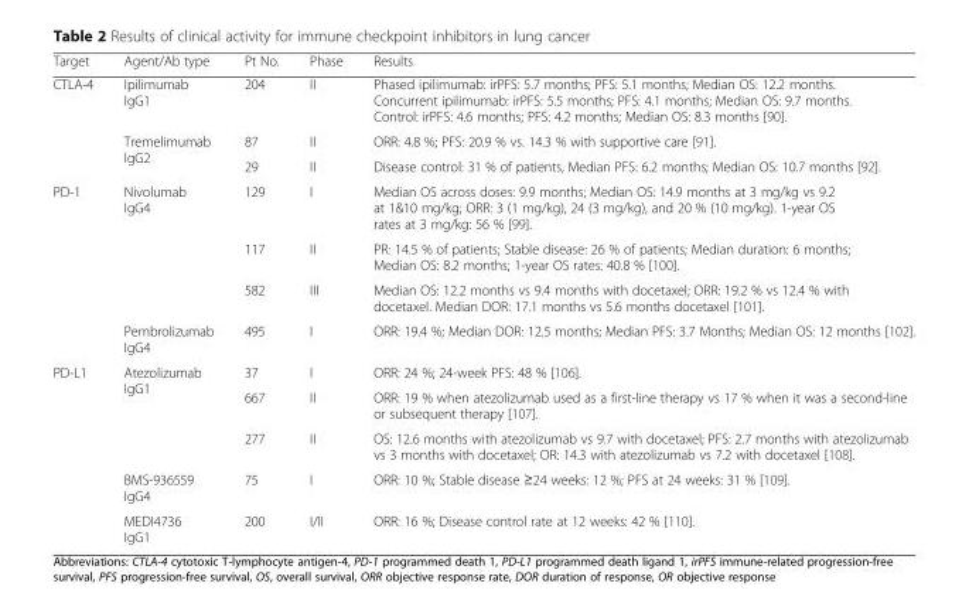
<table><thead><tr><td>Target</td><td>Agent/Ab type</td><td>Pt No.</td><td>Phase</td><td>Results</td></tr></thead><tbody><tr><td rowspan="3">CTLA-4</td><td>Ipilimumab IgG1</td><td>204</td><td>II</td><td>Phased ipilimumab: irPFS: 5.7 months; PFS: 5.1 months; Median OS: 12.2 months. Concurrent ipilimumab: irPFS: 5.5 months; PFS: 4.1 months; Median OS: 9.7 months. Control: irPFS: 4.6 months; PFS: 4.2 months; Median OS: 8.3 months [90].</td></tr><tr><td rowspan="2">Tremelimumab IgG2</td><td>87</td><td>II</td><td>ORR: 4.8 %; PFS: 20.9 % vs. 14.3 % with supportive care [91].</td></tr><tr><td>29</td><td>II</td><td>Disease control: 31 % of patients, Median PFS: 6.2 months; Median OS: 10.7 months [92].</td></tr><tr><td rowspan="4">PD-1</td><td rowspan="3">Nivolumab IgG4</td><td>129</td><td>I</td><td>Median OS across doses: 9.9 months; Median OS: 14.9 months at 3 mg/kg vs 9.2 at 1&amp;10 mg/kg; ORR: 3 (1 mg/kg), 24 (3 mg/kg), and 20 % (10 mg/kg). 1-year OS rates at 3 mg/kg: 56 % [99].</td></tr><tr><td>117</td><td>II</td><td>PR: 14.5 % of patients; Stable disease: 26 % of patients; Median duration: 6 months; Median OS: 8.2 months; 1-year OS rates: 40.8 % [100].</td></tr><tr><td>582</td><td>III</td><td>Median OS: 12.2 months vs 9.4 months with docetaxel; ORR: 19.2 % vs 12.4 % with docetaxel. Median DOR: 17.1 months vs 5.6 months docetaxel [101].</td></tr><tr><td>Pembrolizumab IgG4</td><td>495</td><td>I</td><td>ORR: 19.4 %; Median DOR: 12.5 months; Median PFS: 3.7 Months; Median OS: 12 months [102].</td></tr><tr><td rowspan="5">PD-L1</td><td rowspan="3">Atezolizumab IgG1</td><td>37</td><td>I</td><td>ORR: 24 %; 24-week PFS: 48 % [106].</td></tr><tr><td>667</td><td>II</td><td>ORR: 19 % when atezolizumab used as a first-line therapy vs 17 % when it was a second-line or subsequent therapy [107].</td></tr><tr><td>277</td><td>II</td><td>OS: 12.6 months with atezolizumab vs 9.7 with docetaxel; PFS: 2.7 months with atezolizumab vs 3 months with docetaxel; OR: 14.3 with atezolizumab vs 7.2 with docetaxel [108].</td></tr><tr><td>BMS-936559 IgG4</td><td>75</td><td>I</td><td>ORR: 10 %; Stable disease ≥24 weeks: 12 %; PFS at 24 weeks: 31 % [109].</td></tr><tr><td>MEDI4736 IgG1</td><td>200</td><td>I/II</td><td>ORR: 16 %; Disease control rate at 12 weeks: 42 % [110].</td></tr></tbody></table>